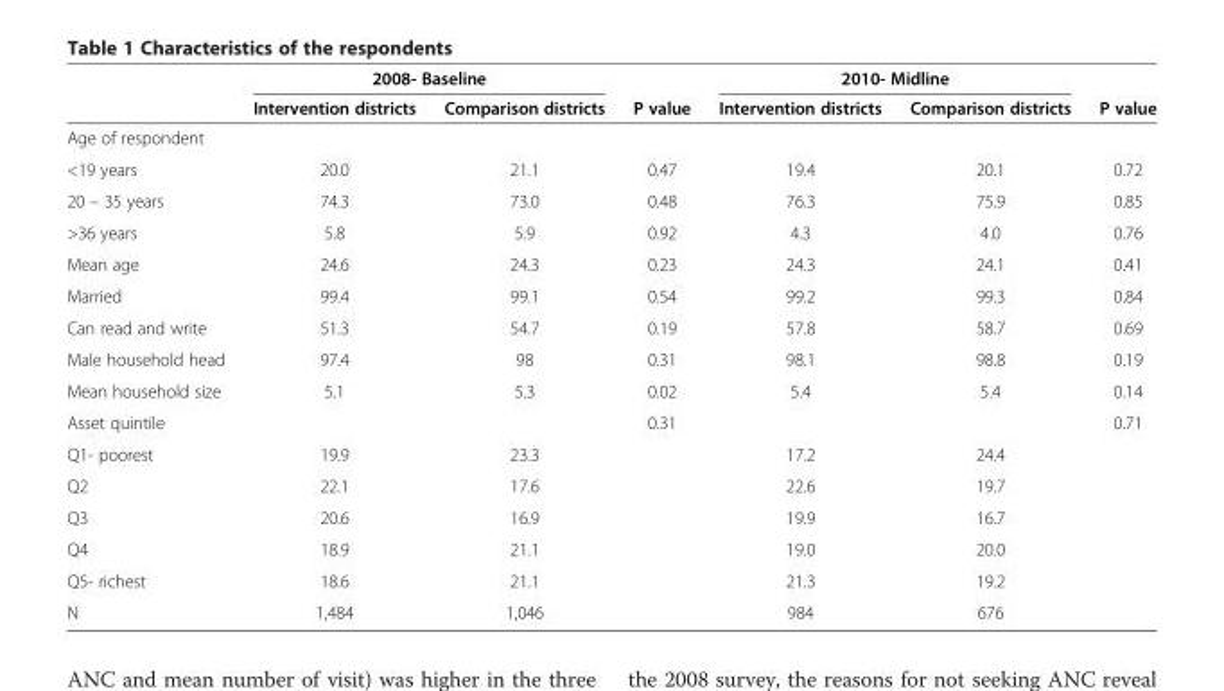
<table><thead><tr><td rowspan="2"></td><td colspan="2">2008- Baseline</td><td rowspan="2">P value</td><td colspan="2">2010- Midline</td><td rowspan="2">P value</td></tr><tr><td>Intervention districts</td><td>Comparison districts</td><td>Intervention districts</td><td>Comparison districts</td></tr></thead><tbody><tr><td colspan="7">Age of respondent</td></tr><tr><td>&lt;19 years</td><td>20.0</td><td>21.1</td><td>0.47</td><td>19.4</td><td>20.1</td><td>0.72</td></tr><tr><td>20 – 35 years</td><td>74.3</td><td>73.0</td><td>0.48</td><td>76.3</td><td>75.9</td><td>0.85</td></tr><tr><td>&gt;36 years</td><td>5.8</td><td>5.9</td><td>0.92</td><td>4.3</td><td>4.0</td><td>0.76</td></tr><tr><td>Mean age</td><td>24.6</td><td>24.3</td><td>0.23</td><td>24.3</td><td>24.1</td><td>0.41</td></tr><tr><td>Married</td><td>99.4</td><td>99.1</td><td>0.54</td><td>99.2</td><td>99.3</td><td>0.84</td></tr><tr><td>Can read and write</td><td>51.3</td><td>54.7</td><td>0.19</td><td>57.8</td><td>58.7</td><td>0.69</td></tr><tr><td>Male household head</td><td>97.4</td><td>98</td><td>0.31</td><td>98.1</td><td>98.8</td><td>0.19</td></tr><tr><td>Mean household size</td><td>5.1</td><td>5.3</td><td>0.02</td><td>5.4</td><td>5.4</td><td>0.14</td></tr><tr><td>Asset quintile</td><td></td><td></td><td>0.31</td><td></td><td></td><td>0.71</td></tr><tr><td>Q1- poorest</td><td>19.9</td><td>23.3</td><td rowspan="5"></td><td>17.2</td><td>24.4</td><td rowspan="5"></td></tr><tr><td>Q2</td><td>22.1</td><td>17.6</td><td>22.6</td><td>19.7</td></tr><tr><td>Q3</td><td>20.6</td><td>16.9</td><td>19.9</td><td>16.7</td></tr><tr><td>Q4</td><td>18.9</td><td>21.1</td><td>19.0</td><td>20.0</td></tr><tr><td>Q5- richest</td><td>18.6</td><td>21.1</td><td>21.3</td><td>19.2</td></tr><tr><td>N</td><td>1,484</td><td>1,046</td><td></td><td>984</td><td>676</td><td></td></tr></tbody></table>